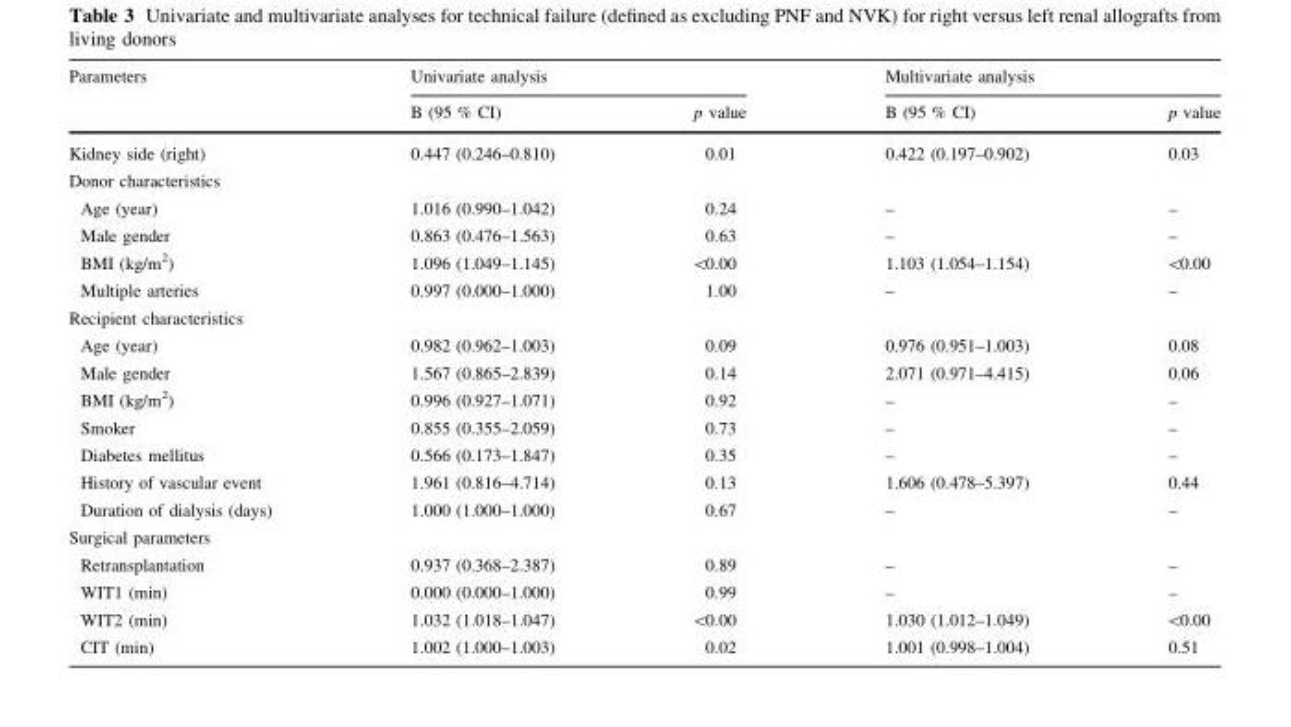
<table><thead><tr><td rowspan="2">Parameters</td><td colspan="2">Univariate analysis</td><td colspan="2">Multivariate analysis</td></tr><tr><td>B (95 % CI)</td><td>p value</td><td>B (95 % CI)</td><td>p value</td></tr></thead><tbody><tr><td>Kidney side (right)</td><td>0.447 (0.246–0.810)</td><td>0.01</td><td>0.422 (0.197–0.902)</td><td>0.03</td></tr><tr><td colspan="5">Donor characteristics</td></tr><tr><td>Age (year)</td><td>1.016 (0.990–1.042)</td><td>0.24</td><td>–</td><td>–</td></tr><tr><td>Male gender</td><td>0.863 (0.476–1.563)</td><td>0.63</td><td>–</td><td>–</td></tr><tr><td>BMI (kg/m<sup>2</sup>)</td><td>1.096 (1.049–1.145)</td><td>&lt;0.00</td><td>1.103 (1.054–1.154)</td><td>&lt;0.00</td></tr><tr><td>Multiple arteries</td><td>0.997 (0.000–1.000)</td><td>1.00</td><td>–</td><td>–</td></tr><tr><td colspan="5">Recipient characteristics</td></tr><tr><td>Age (year)</td><td>0.982 (0.962–1.003)</td><td>0.09</td><td>0.976 (0.951–1.003)</td><td>0.08</td></tr><tr><td>Male gender</td><td>1.567 (0.865–2.839)</td><td>0.14</td><td>2.071 (0.971–4.415)</td><td>0.06</td></tr><tr><td>BMI (kg/m<sup>2</sup>)</td><td>0.996 (0.927–1.071)</td><td>0.92</td><td>–</td><td>–</td></tr><tr><td>Smoker</td><td>0.855 (0.355–2.059)</td><td>0.73</td><td>–</td><td>–</td></tr><tr><td>Diabetes mellitus</td><td>0.566 (0.173–1.847)</td><td>0.35</td><td>–</td><td>–</td></tr><tr><td>History of vascular event</td><td>1.961 (0.816–4.714)</td><td>0.13</td><td>1.606 (0.478–5.397)</td><td>0.44</td></tr><tr><td>Duration of dialysis (days)</td><td>1.000 (1.000–1.000)</td><td>0.67</td><td>–</td><td>–</td></tr><tr><td colspan="5">Surgical parameters</td></tr><tr><td>Retransplantation</td><td>0.937 (0.368–2.387)</td><td>0.89</td><td>–</td><td>–</td></tr><tr><td>WIT1 (min)</td><td>0.000 (0.000–1.000)</td><td>0.99</td><td>–</td><td>–</td></tr><tr><td>WIT2 (min)</td><td>1.032 (1.018–1.047)</td><td>&lt;0.00</td><td>1.030 (1.012–1.049)</td><td>&lt;0.00</td></tr><tr><td>CIT (min)</td><td>1.002 (1.000–1.003)</td><td>0.02</td><td>1.001 (0.998–1.004)</td><td>0.51</td></tr></tbody></table>